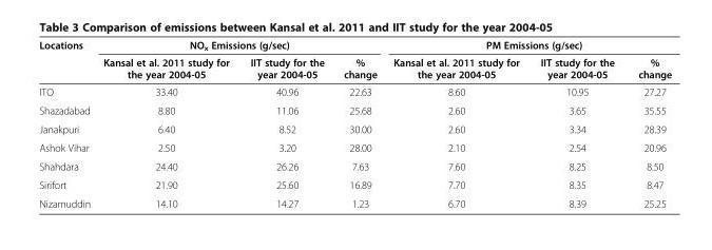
<table><thead><tr><td rowspan="2">Locations</td><td colspan="3">NO<sub>x</sub> Emissions (g/sec)</td><td colspan="3">PM Emissions (g/sec)</td></tr><tr><td>Kansal et al. <sup>2011</sup> study for the year 2004-05</td><td>IIT study for the year 2004-05</td><td>% change</td><td>Kansal et al. <sup>2011</sup> study for the year 2004-05</td><td>IIT study for the year 2004-05</td><td>% change</td></tr></thead><tbody><tr><td>ITO</td><td>33.40</td><td>40.96</td><td>22.63</td><td>8.60</td><td>10.95</td><td>27.27</td></tr><tr><td>Shazadabad</td><td>8.80</td><td>11.06</td><td>25.68</td><td>2.60</td><td>3.65</td><td>35.55</td></tr><tr><td>Janakpuri</td><td>6.40</td><td>8.52</td><td>30.00</td><td>2.60</td><td>3.34</td><td>28.39</td></tr><tr><td>Ashok Vihar</td><td>2.50</td><td>3.20</td><td>28.00</td><td>2.10</td><td>2.54</td><td>20.96</td></tr><tr><td>Shahdara</td><td>24.40</td><td>26.26</td><td>7.63</td><td>7.60</td><td>8.25</td><td>8.50</td></tr><tr><td>Sirifort</td><td>21.90</td><td>25.60</td><td>16.89</td><td>7.70</td><td>8.35</td><td>8.47</td></tr><tr><td>Nizamuddin</td><td>14.10</td><td>14.27</td><td>1.23</td><td>6.70</td><td>8.39</td><td>25.25</td></tr></tbody></table>